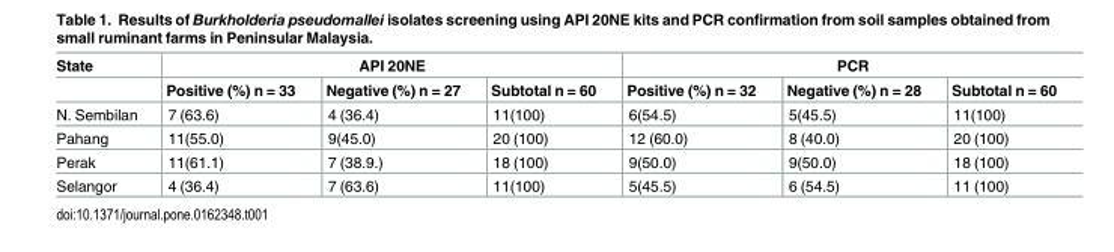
<table><thead><tr><td rowspan="2">State</td><td colspan="3">API 20NE</td><td colspan="3">PCR</td></tr><tr><td>Positive (%) n = 33</td><td>Negative (%) n = 27</td><td>Subtotal n = 60</td><td>Positive (%) n = 32</td><td>Negative (%) n = 28</td><td>Subtotal n = 60</td></tr></thead><tbody><tr><td>N. Sembilan</td><td>7 (63.6)</td><td>4 (36.4)</td><td>11(100)</td><td>6(54.5)</td><td>5(45.5)</td><td>11(100)</td></tr><tr><td>Pahang</td><td>11(55.0)</td><td>9(45.0)</td><td>20 (100)</td><td>12 (60.0)</td><td>8 (40.0)</td><td>20 (100)</td></tr><tr><td>Perak</td><td>11(61.1)</td><td>7 (38.9.)</td><td>18 (100)</td><td>9(50.0)</td><td>9(50.0)</td><td>18 (100)</td></tr><tr><td>Selangor</td><td>4 (36.4)</td><td>7 (63.6)</td><td>11(100)</td><td>5(45.5)</td><td>6 (54.5)</td><td>11 (100)</td></tr></tbody></table>